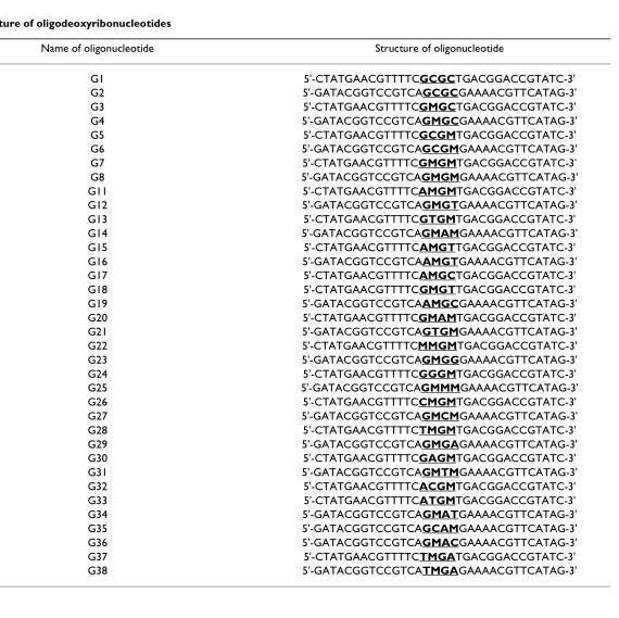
<table><thead><tr><td>Name of oligonucleotide</td><td>Structure of oligonucleotide</td></tr></thead><tbody><tr><td>G1</td><td>5&#x27;-CTATGAACGTTTTCGCGCTGACGGACCGTATC-3&#x27;</td></tr><tr><td>G2</td><td>5&#x27;-GATACGGTCCGTCAGCGCGAAAACGTTCATAG-3&#x27;</td></tr><tr><td>G3</td><td>5&#x27;-CTATGAACGTTTTCGMGCTGACGGACCGTATC-3&#x27;</td></tr><tr><td>G4</td><td>5&#x27;-GATACGGTCCGTCAGMGCGAAAACGTTCATAG-3&#x27;</td></tr><tr><td>G5</td><td>5&#x27;-CTATGAACGTTTTCGCGMTGACGGACCGTATC-3&#x27;</td></tr><tr><td>G6</td><td>5&#x27;-GATACGGTCCGTCAGCGMGAAAACGTTCATAG-3&#x27;</td></tr><tr><td>G7</td><td>5&#x27;-CTATGAACGTTTTCGMGMTGACGGACCGTATC-3&#x27;</td></tr><tr><td>G8</td><td>5&#x27;-GATACGGTCCGTCAGMGMGAAAACGTTCATAG-3&#x27;</td></tr><tr><td>G11</td><td>5&#x27;-CTATGAACGTTTTCAMGMTGACGGACCGTATC-3&#x27;</td></tr><tr><td>G12</td><td>5&#x27;-GATACGGTCCGTCAGMGTGAAAACGTTCATAG-3&#x27;</td></tr><tr><td>G13</td><td>5&#x27;-CTATGAACGTTTTCGTGMTGACGGACCGTATC-3&#x27;</td></tr><tr><td>G14</td><td>5&#x27;-GATACGGTCCGTCAGMAMGAAAACGTTCATAG-3&#x27;</td></tr><tr><td>G15</td><td>5&#x27;-CTATGAACGTTTTCAMGTTGACGGACCGTATC-3&#x27;</td></tr><tr><td>G16</td><td>5&#x27;-GATACGGTCCGTCAAMGTGAAAACGTTCATAG-3&#x27;</td></tr><tr><td>G17</td><td>5&#x27;-CTATGAACGTTTTCAMGCTGACGGACCGTATC-3&#x27;</td></tr><tr><td>G18</td><td>5&#x27;-CTATGAACGTTTTCGMGTTGACGGACCGTATC-3&#x27;</td></tr><tr><td>G19</td><td>5&#x27;-GATACGGTCCGTCAAMGCGAAAACGTTCATAG-3&#x27;</td></tr><tr><td>G20</td><td>5&#x27;-CTATGAACGTTTTCGMAMTGACGGACCGTATC-3&#x27;</td></tr><tr><td>G21</td><td>5&#x27;-GATACGGTCCGTCAGTGMGAAAACGTTCATAG-3&#x27;</td></tr><tr><td>G22</td><td>5&#x27;-CTATGAACGTTTTCMMGMTGACGGACCGTATC-3&#x27;</td></tr><tr><td>G23</td><td>5&#x27;-GATACGGTCCGTCAGMGGGAAAACGTTCATAG-3&#x27;</td></tr><tr><td>G24</td><td>5&#x27;-CTATGAACGTTTTCGGGMTGACGGACCGTATC-3&#x27;</td></tr><tr><td>G25</td><td>5&#x27;-GATACGGTCCGTCAGMMMGAAAACGTTCATAG-3&#x27;</td></tr><tr><td>G26</td><td>5&#x27;-CTATGAACGTTTTCCMGMTGACGGACCGTATC-3&#x27;</td></tr><tr><td>G27</td><td>5&#x27;-GATACGGTCCGTCAGMCMGAAAACGTTCATAG-3&#x27;</td></tr><tr><td>G28</td><td>5&#x27;-CTATGAACGTTTTCTMGMTGACGGACCGTATC-3&#x27;</td></tr><tr><td>G29</td><td>5&#x27;-GATACGGTCCGTCAGMGAGAAAACGTTCATAG-3&#x27;</td></tr><tr><td>G30</td><td>5&#x27;-CTATGAACGTTTTCGAGMTGACGGACCGTATC-3&#x27;</td></tr><tr><td>G31</td><td>5&#x27;-GATACGGTCCGTCAGMTMGAAAACGTTCATAG-3&#x27;</td></tr><tr><td>G32</td><td>5&#x27;-CTATGAACGTTTTCACGMTGACGGACCGTATC-3&#x27;</td></tr><tr><td>G33</td><td>5&#x27;-CTATGAACGTTTTCATGMTGACGGACCGTATC-3&#x27;</td></tr><tr><td>G34</td><td>5&#x27;-GATACGGTCCGTCAGMATGAAAACGTTCATAG-3&#x27;</td></tr><tr><td>G35</td><td>5&#x27;-GATACGGTCCGTCAGCAMGAAAACGTTCATAG-3&#x27;</td></tr><tr><td>G36</td><td>5&#x27;-GATACGGTCCGTCAGMACGAAAACGTTCATAG-3&#x27;</td></tr><tr><td>G37</td><td>5&#x27;-CTATGAACGTTTTCTMGATGACGGACCGTATC-3&#x27;</td></tr><tr><td>G38</td><td>5&#x27;-GATACGGTCCGTCATMGAGAAAACGTTCATAG-3&#x27;</td></tr></tbody></table>